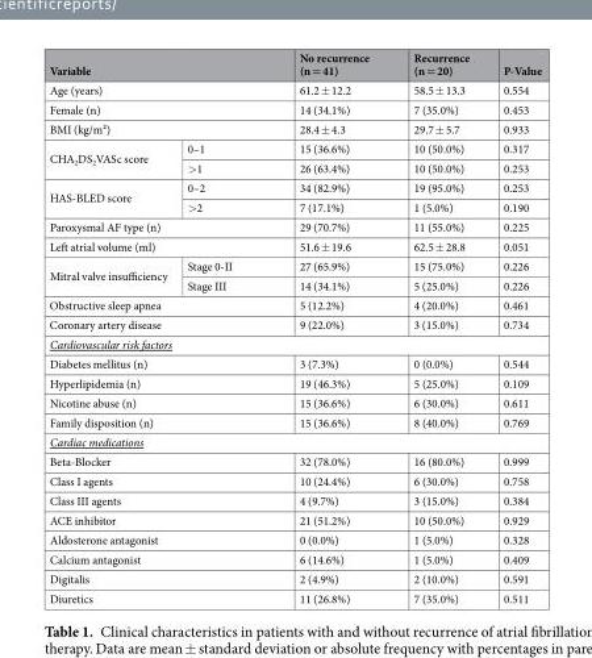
<table><thead><tr><td colspan="2">Variable</td><td>No recurrence (n = 41)</td><td>Recurrence (n = 20)</td><td>P-Value</td></tr></thead><tbody><tr><td colspan="2">Age (years)</td><td>61.2 ± 12.2</td><td>58.5 ± 13.3</td><td>0.554</td></tr><tr><td colspan="2">Female (n)</td><td>14 (34.1%)</td><td>7 (35.0%)</td><td>0.453</td></tr><tr><td colspan="2">BMI (kg/m²)</td><td>28.4 ± 4.3</td><td>29.7 ± 5.7</td><td>0.933</td></tr><tr><td rowspan="2">CHA<sub>2</sub>DS<sub>2</sub>VASc score</td><td>0–1</td><td>15 (36.6%)</td><td>10 (50.0%)</td><td>0.317</td></tr><tr><td>&gt;1</td><td>26 (63.4%)</td><td>10 (50.0%)</td><td>0.253</td></tr><tr><td rowspan="2">HAS-BLED score</td><td>0–2</td><td>34 (82.9%)</td><td>19 (95.0%)</td><td>0.253</td></tr><tr><td>&gt;2</td><td>7 (17.1%)</td><td>1 (5.0%)</td><td>0.190</td></tr><tr><td colspan="2">Paroxysmal AF type (n)</td><td>29 (70.7%)</td><td>11 (55.0%)</td><td>0.225</td></tr><tr><td colspan="2">Left atrial volume (ml)</td><td>51.6 ± 19.6</td><td>62.5 ± 28.8</td><td>0.051</td></tr><tr><td rowspan="2">Mitral valve insufficiency</td><td>Stage 0-II</td><td>27 (65.9%)</td><td>15 (75.0%)</td><td>0.226</td></tr><tr><td>Stage III</td><td>14 (34.1%)</td><td>5 (25.0%)</td><td>0.226</td></tr><tr><td colspan="2">Obstructive sleep apnea</td><td>5 (12.2%)</td><td>4 (20.0%)</td><td>0.461</td></tr><tr><td colspan="2">Coronary artery disease</td><td>9 (22.0%)</td><td>3 (15.0%)</td><td>0.734</td></tr><tr><td colspan="5">Cardiovascular risk factors</td></tr><tr><td colspan="2">Diabetes mellitus (n)</td><td>3 (7.3%)</td><td>0 (0.0%)</td><td>0.544</td></tr><tr><td colspan="2">Hyperlipidemia (n)</td><td>19 (46.3%)</td><td>5 (25.0%)</td><td>0.109</td></tr><tr><td colspan="2">Nicotine abuse (n)</td><td>15 (36.6%)</td><td>6 (30.0%)</td><td>0.611</td></tr><tr><td colspan="2">Family disposition (n)</td><td>15 (36.6%)</td><td>8 (40.0%)</td><td>0.769</td></tr><tr><td colspan="5">Cardiac medications</td></tr><tr><td colspan="2">Beta-Blocker</td><td>32 (78.0%)</td><td>16 (80.0%)</td><td>0.999</td></tr><tr><td colspan="2">Class I agents</td><td>10 (24.4%)</td><td>6 (30.0%)</td><td>0.758</td></tr><tr><td colspan="2">Class III agents</td><td>4 (9.7%)</td><td>3 (15.0%)</td><td>0.384</td></tr><tr><td colspan="2">ACE inhibitor</td><td>21 (51.2%)</td><td>10 (50.0%)</td><td>0.929</td></tr><tr><td colspan="2">Aldosterone antagonist</td><td>0 (0.0%)</td><td>1 (5.0%)</td><td>0.328</td></tr><tr><td colspan="2">Calcium antagonist</td><td>6 (14.6%)</td><td>1 (5.0%)</td><td>0.409</td></tr><tr><td colspan="2">Digitalis</td><td>2 (4.9%)</td><td>2 (10.0%)</td><td>0.591</td></tr><tr><td colspan="2">Diuretics</td><td>11 (26.8%)</td><td>7 (35.0%)</td><td>0.511</td></tr></tbody></table>